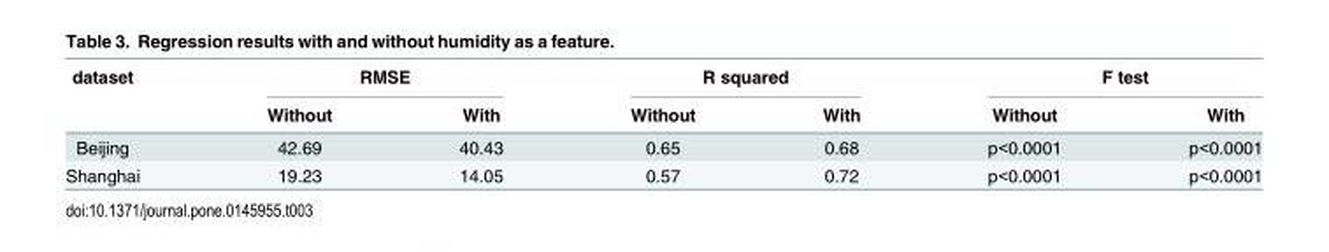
<table><thead><tr><td rowspan="2">dataset</td><td colspan="2">RMSE</td><td colspan="2">R squared</td><td colspan="2">F test</td></tr><tr><td>Without</td><td>With</td><td>Without</td><td>With</td><td>Without</td><td>With</td></tr></thead><tbody><tr><td>Beijing</td><td>42.69</td><td>40.43</td><td>0.65</td><td>0.68</td><td>p&lt;0.0001</td><td>p&lt;0.0001</td></tr><tr><td>Shanghai</td><td>19.23</td><td>14.05</td><td>0.57</td><td>0.72</td><td>p&lt;0.0001</td><td>p&lt;0.0001</td></tr></tbody></table>